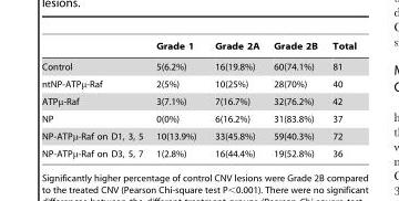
<table><thead><tr><td></td><td>Grade 1</td><td>Grade 2A</td><td>Grade 2B</td><td>Total</td></tr></thead><tbody><tr><td>Control</td><td>5(6.2%)</td><td>16(19.8%)</td><td>60(74.1%)</td><td>81</td></tr><tr><td>ntNP-ATPμ-Raf</td><td>2(5%)</td><td>10(25%)</td><td>28(70%)</td><td>40</td></tr><tr><td>ATPμ-Raf</td><td>3(7.1%)</td><td>7(16.7%)</td><td>32(76.2%)</td><td>42</td></tr><tr><td>NP</td><td>0(0%)</td><td>6(16.2%)</td><td>31(83.8%)</td><td>37</td></tr><tr><td>NP-ATPμ-Raf on D1, 3, 5</td><td>10(13.9%)</td><td>33(45.8%)</td><td>59(40.3%)</td><td>72</td></tr><tr><td>NP-ATPμ-Raf on D3, 5, 7</td><td>1(2.8%)</td><td>16(44.4%)</td><td>19(52.8%)</td><td>36</td></tr></tbody></table>